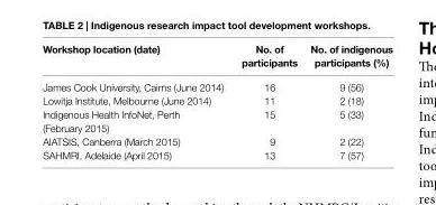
<table><thead><tr><td>Workshop location (date)</td><td>no. of participants</td><td>no. of indigenous participants (%)</td></tr></thead><tbody><tr><td>James Cook University, Cairns (June 2014)</td><td>16</td><td>9 (56)</td></tr><tr><td>Lowitja Institute, Melbourne (June 2014)</td><td>11</td><td>2 (18)</td></tr><tr><td>Indigenous Health InfoNet, Perth (February 2015)</td><td>15</td><td>5 (33)</td></tr><tr><td>AIATSIS, Canberra (March 2015)</td><td>9</td><td>2 (22)</td></tr><tr><td>SAHMRI, Adelaide (April 2015)</td><td>13</td><td>7 (57)</td></tr></tbody></table>